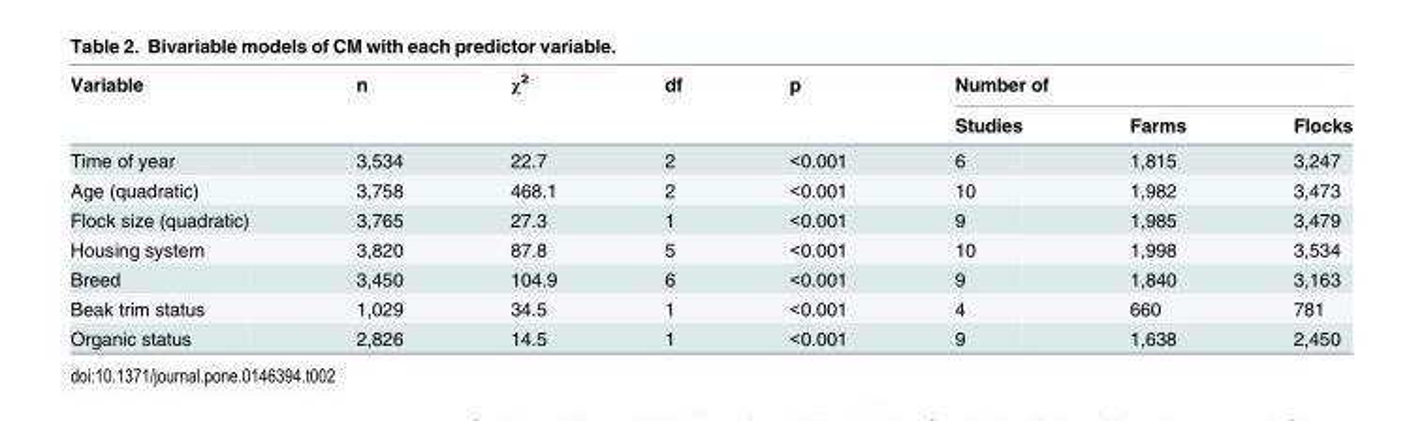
<table><thead><tr><td rowspan="2">Variable</td><td rowspan="2">n</td><td rowspan="2">χ<sup>2</sup></td><td rowspan="2">df</td><td rowspan="2">p</td><td colspan="3">Number of</td></tr><tr><td>Studies</td><td>Farms</td><td>Flocks</td></tr></thead><tbody><tr><td>Time of year</td><td>3,534</td><td>22.7</td><td>2</td><td>&lt;0.001</td><td>6</td><td>1,815</td><td>3,247</td></tr><tr><td>Age (quadratic)</td><td>3,758</td><td>468.1</td><td>2</td><td>&lt;0.001</td><td>10</td><td>1,982</td><td>3,473</td></tr><tr><td>Flock size (quadratic)</td><td>3,765</td><td>27.3</td><td>1</td><td>&lt;0.001</td><td>9</td><td>1,985</td><td>3,479</td></tr><tr><td>Housing system</td><td>3,820</td><td>87.8</td><td>5</td><td>&lt;0.001</td><td>10</td><td>1,998</td><td>3,534</td></tr><tr><td>Breed</td><td>3,450</td><td>104.9</td><td>6</td><td>&lt;0.001</td><td>9</td><td>1,840</td><td>3,163</td></tr><tr><td>Beak trim status</td><td>1,029</td><td>34.5</td><td>1</td><td>&lt;0.001</td><td>4</td><td>660</td><td>781</td></tr><tr><td>Organic status</td><td>2,826</td><td>14.5</td><td>1</td><td>&lt;0.001</td><td>9</td><td>1,638</td><td>2,450</td></tr></tbody></table>